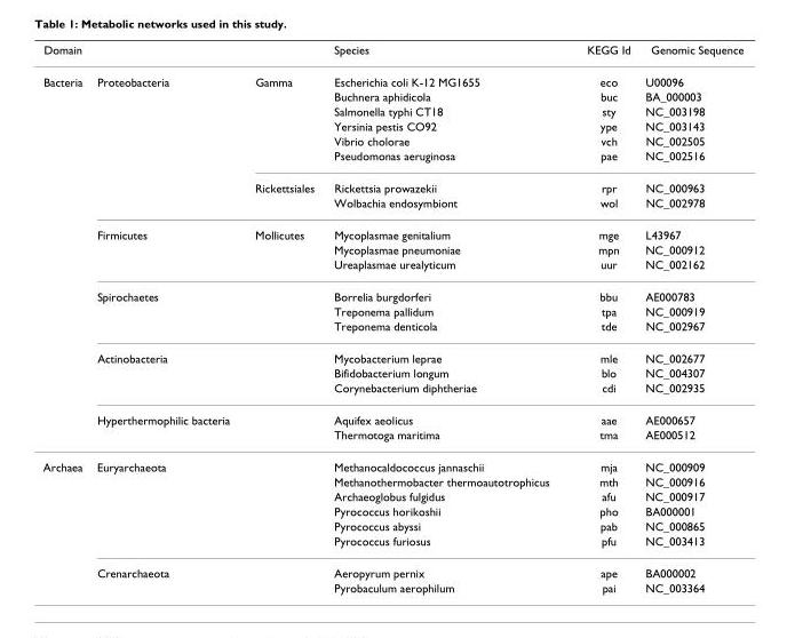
<table><thead><tr><td>Domain</td><td></td><td></td><td>Species</td><td>KEGG Id</td><td>Genomic Sequence</td></tr></thead><tbody><tr><td rowspan="19">Bacteria</td><td>Proteobacteria</td><td>Gamma</td><td>Escherichia coli K-12 MG1655</td><td>eco</td><td>U00096</td></tr><tr><td></td><td></td><td>Buchnera aphidicola</td><td>buc</td><td>BA_000003</td></tr><tr><td></td><td></td><td>Salmonella typhi CT18</td><td>sty</td><td>NC_003198</td></tr><tr><td></td><td></td><td>Yersinia pestis CO92</td><td>ype</td><td>NC_003143</td></tr><tr><td></td><td></td><td>Vibrio cholorae</td><td>vch</td><td>NC_002505</td></tr><tr><td></td><td></td><td>Pseudomonas aeruginosa</td><td>pae</td><td>NC_002516</td></tr><tr><td></td><td>Rickettsiales</td><td>Rickettsia prowazekii</td><td>rpr</td><td>NC_000963</td></tr><tr><td></td><td></td><td>Wolbachia endosymbiont</td><td>wol</td><td>NC_002978</td></tr><tr><td>Firmicutes</td><td>Mollicutes</td><td>Mycoplasmae genitalium</td><td>mge</td><td>L43967</td></tr><tr><td></td><td></td><td>Mycoplasmae pneumoniae</td><td>mpn</td><td>NC_000912</td></tr><tr><td></td><td></td><td>Ureaplasmae urealyticum</td><td>uur</td><td>NC_002162</td></tr><tr><td>Spirochaetes</td><td></td><td>Borrelia burgdorferi</td><td>bbu</td><td>AE000783</td></tr><tr><td></td><td></td><td>Treponema pallidum</td><td>tpa</td><td>NC_000919</td></tr><tr><td></td><td></td><td>Treponema denticola</td><td>tde</td><td>NC_002967</td></tr><tr><td>Actinobacteria</td><td></td><td>Mycobacterium leprae</td><td>mle</td><td>NC_002677</td></tr><tr><td></td><td></td><td>Bifidobacterium longum</td><td>blo</td><td>NC_004307</td></tr><tr><td></td><td></td><td>Corynebacterium diphtheriae</td><td>cdi</td><td>NC_002935</td></tr><tr><td>Hyperthermophilic bacteria</td><td></td><td>Aquifex aeolicus</td><td>aae</td><td>AE000657</td></tr><tr><td></td><td></td><td>Thermotoga maritima</td><td>tma</td><td>AE000512</td></tr><tr><td rowspan="8">Archaea</td><td>Euryarchaeota</td><td></td><td>Methanocaldococcus jannaschii</td><td>mja</td><td>NC_000909</td></tr><tr><td></td><td></td><td>Methanothermobacter thermoautotrophicus</td><td>mth</td><td>NC_000916</td></tr><tr><td></td><td></td><td>Archaeoglobus fulgidus</td><td>afu</td><td>NC_000917</td></tr><tr><td></td><td></td><td>Pyrococcus horikoshii</td><td>pho</td><td>BA000001</td></tr><tr><td></td><td></td><td>Pyrococcus abyssi</td><td>pab</td><td>NC_000865</td></tr><tr><td></td><td></td><td>Pyrococcus furiosus</td><td>pfu</td><td>NC_003413</td></tr><tr><td>Crenarchaeota</td><td></td><td>Aeropyrum pernix</td><td>ape</td><td>BA000002</td></tr><tr><td></td><td></td><td>Pyrobaculum aerophilum</td><td>pai</td><td>NC_003364</td></tr></tbody></table>